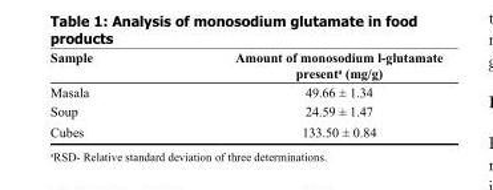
<table><thead><tr><td>Sample</td><td>Amount of monosodium l-glutamate present<sup>a</sup> (mg/g)</td></tr></thead><tbody><tr><td>Masala</td><td>49.66 ± 1.34</td></tr><tr><td>Soup</td><td>24.59 ± 1.47</td></tr><tr><td>Cubes</td><td>133.50 ± 0.84</td></tr></tbody></table>